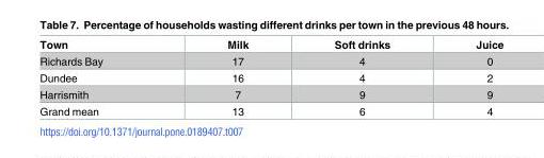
<table><thead><tr><td>Town</td><td>Milk</td><td>Soft drinks</td><td>Juice</td></tr></thead><tbody><tr><td>Richards Bay</td><td>17</td><td>4</td><td>0</td></tr><tr><td>Dundee</td><td>16</td><td>4</td><td>2</td></tr><tr><td>Harrismith</td><td>7</td><td>9</td><td>9</td></tr><tr><td>Grand mean</td><td>13</td><td>6</td><td>4</td></tr></tbody></table>